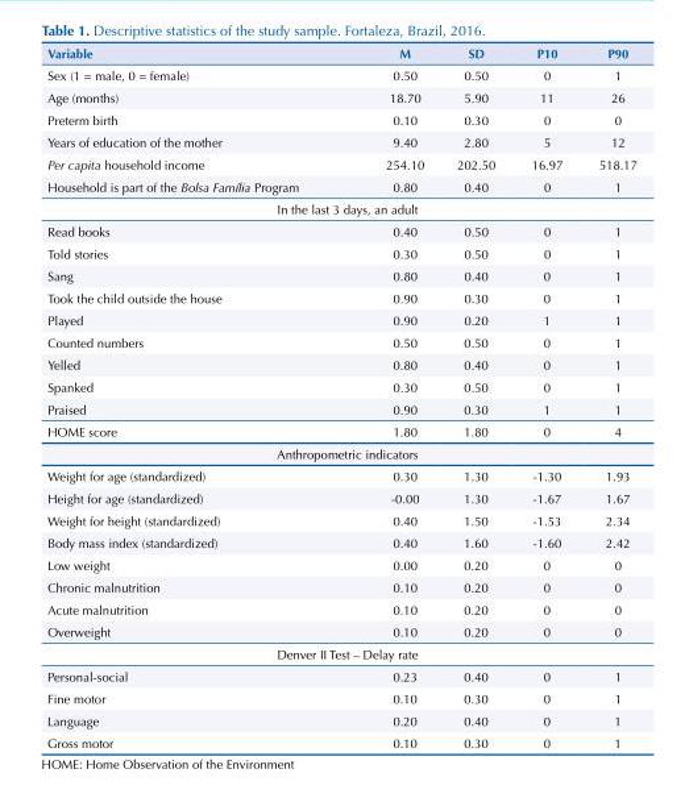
<table><thead><tr><td>Variable</td><td>M</td><td>SD</td><td>P10</td><td>P90</td></tr></thead><tbody><tr><td>Sex (1 = male, 0 = female)</td><td>0.50</td><td>0.50</td><td>0</td><td>1</td></tr><tr><td>Age (months)</td><td>18.70</td><td>5.90</td><td>11</td><td>26</td></tr><tr><td>Preterm birth</td><td>0.10</td><td>0.30</td><td>0</td><td>0</td></tr><tr><td>Years of education of the mother</td><td>9.40</td><td>2.80</td><td>5</td><td>12</td></tr><tr><td>Per capita household income</td><td>254.10</td><td>202.50</td><td>16.97</td><td>518.17</td></tr><tr><td>Household is part of the Bolsa Família Program</td><td>0.80</td><td>0.40</td><td>0</td><td>1</td></tr><tr><td colspan="5">In the last 3 days, an adult</td></tr><tr><td>Read books</td><td>0.40</td><td>0.50</td><td>0</td><td>1</td></tr><tr><td>Told stories</td><td>0.30</td><td>0.50</td><td>0</td><td>1</td></tr><tr><td>Sang</td><td>0.80</td><td>0.40</td><td>0</td><td>1</td></tr><tr><td>Took the child outside the house</td><td>0.90</td><td>0.30</td><td>0</td><td>1</td></tr><tr><td>Played</td><td>0.90</td><td>0.20</td><td>1</td><td>1</td></tr><tr><td>Counted numbers</td><td>0.50</td><td>0.50</td><td>0</td><td>1</td></tr><tr><td>Yelled</td><td>0.80</td><td>0.40</td><td>0</td><td>1</td></tr><tr><td>Spanked</td><td>0.30</td><td>0.50</td><td>0</td><td>1</td></tr><tr><td>Praised</td><td>0.90</td><td>0.30</td><td>1</td><td>1</td></tr><tr><td>HOME score</td><td>1.80</td><td>1.80</td><td>0</td><td>4</td></tr><tr><td colspan="5">Anthropometric indicators</td></tr><tr><td>Weight for age (standardized)</td><td>0.30</td><td>1.30</td><td>-1.30</td><td>1.93</td></tr><tr><td>Height for age (standardized)</td><td>-0.00</td><td>1.30</td><td>-1.67</td><td>1.67</td></tr><tr><td>Weight for height (standardized)</td><td>0.40</td><td>1.50</td><td>-1.53</td><td>2.34</td></tr><tr><td>Body mass index (standardized)</td><td>0.40</td><td>1.60</td><td>-1.60</td><td>2.42</td></tr><tr><td>Low weight</td><td>0.00</td><td>0.20</td><td>0</td><td>0</td></tr><tr><td>Chronic malnutrition</td><td>0.10</td><td>0.20</td><td>0</td><td>0</td></tr><tr><td>Acute malnutrition</td><td>0.10</td><td>0.20</td><td>0</td><td>0</td></tr><tr><td>Overweight</td><td>0.10</td><td>0.20</td><td>0</td><td>0</td></tr><tr><td colspan="5">Denver II Test – Delay rate</td></tr><tr><td>Personal-social</td><td>0.23</td><td>0.40</td><td>0</td><td>1</td></tr><tr><td>Fine motor</td><td>0.10</td><td>0.30</td><td>0</td><td>1</td></tr><tr><td>Language</td><td>0.20</td><td>0.40</td><td>0</td><td>1</td></tr><tr><td>Gross motor</td><td>0.10</td><td>0.30</td><td>0</td><td>1</td></tr></tbody></table>